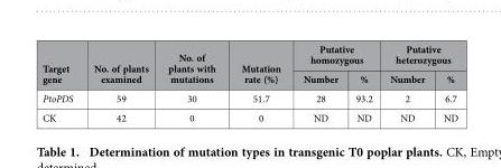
<table><thead><tr><td rowspan="2">Target gene</td><td rowspan="2">No. of plants examined</td><td rowspan="2">No. of plants with mutations</td><td rowspan="2">Mutation rate (%)</td><td colspan="2">Putative homozygous</td><td colspan="2">Putative heterozygous</td></tr><tr><td>Number</td><td>%</td><td>Number</td><td>%</td></tr></thead><tbody><tr><td>PtoPDS</td><td>59</td><td>30</td><td>51.7</td><td>28</td><td>93.2</td><td>2</td><td>6.7</td></tr><tr><td>CK</td><td>42</td><td>0</td><td>0</td><td>ND</td><td>ND</td><td>ND</td><td>ND</td></tr></tbody></table>